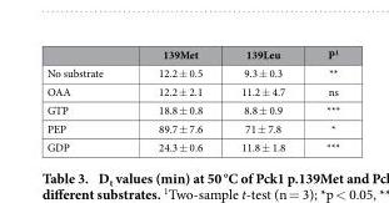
<table><thead><tr><td></td><td>139Met</td><td>139Leu</td><td>P<sup>1</sup></td></tr></thead><tbody><tr><td>No substrate</td><td>12.2 ± 0.5</td><td>9.3 ± 0.3</td><td>**</td></tr><tr><td>OAA</td><td>12.2 ± 2.1</td><td>11.2 ± 4.7</td><td>ns</td></tr><tr><td>GTP</td><td>18.8 ± 0.8</td><td>8.8 ± 0.9</td><td>***</td></tr><tr><td>PEP</td><td>89.7 ± 7.6</td><td>71 ± 7.8</td><td>*</td></tr><tr><td>GDP</td><td>24.3 ± 0.6</td><td>11.8 ± 1.8</td><td>***</td></tr></tbody></table>